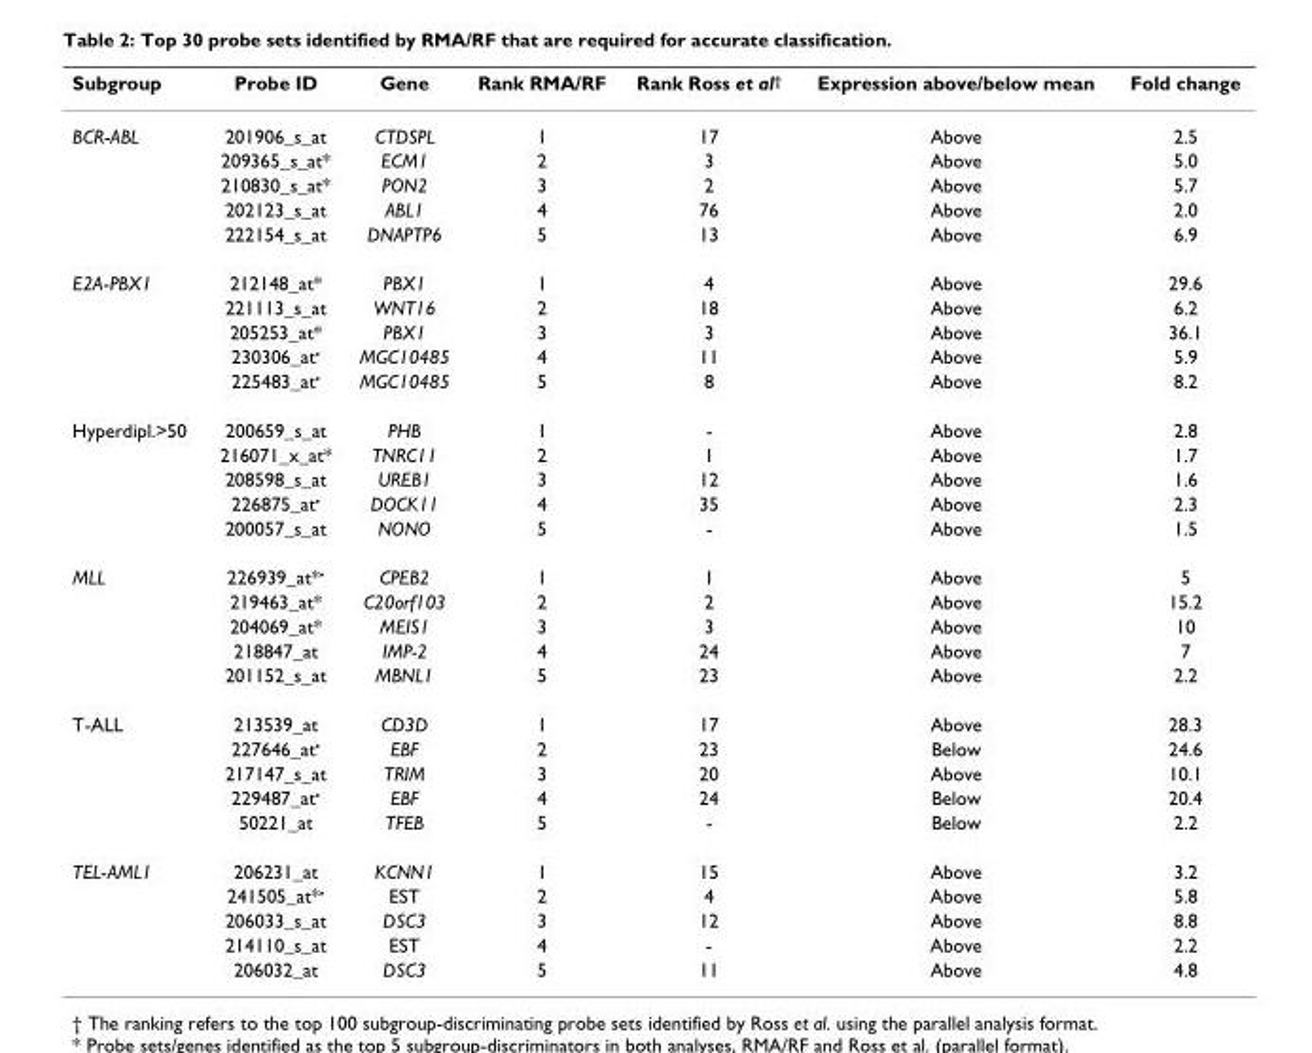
<table><thead><tr><td>Subgroup</td><td>Probe ID</td><td>Gene</td><td>Rank RMA/RF</td><td>Rank Ross et al†</td><td>Expression above/below mean</td><td>Fold change</td></tr></thead><tbody><tr><td rowspan="5">BCR-ABL</td><td>201906_s_at</td><td>CTDSPL</td><td>1</td><td>17</td><td>Above</td><td>2.5</td></tr><tr><td>209365_s_at*</td><td>ECM1</td><td>2</td><td>3</td><td>Above</td><td>5.0</td></tr><tr><td>210830_s_at*</td><td>PON2</td><td>3</td><td>2</td><td>Above</td><td>5.7</td></tr><tr><td>202123_s_at</td><td>ABL1</td><td>4</td><td>76</td><td>Above</td><td>2.0</td></tr><tr><td>222154_s_at</td><td>DNAPTP6</td><td>5</td><td>13</td><td>Above</td><td>6.9</td></tr><tr><td rowspan="5">E2A-PBX1</td><td>212148_at*</td><td>PBX1</td><td>1</td><td>4</td><td>Above</td><td>29.6</td></tr><tr><td>221113_s_at</td><td>WNT16</td><td>2</td><td>18</td><td>Above</td><td>6.2</td></tr><tr><td>205253_at*</td><td>PBX1</td><td>3</td><td>3</td><td>Above</td><td>36.1</td></tr><tr><td>230306_at•</td><td>MGC10485</td><td>4</td><td>11</td><td>Above</td><td>5.9</td></tr><tr><td>225483_at•</td><td>MGC10485</td><td>5</td><td>8</td><td>Above</td><td>8.2</td></tr><tr><td rowspan="5">Hyperdipl.&gt;50</td><td>200659_s_at</td><td>PHB</td><td>1</td><td>-</td><td>Above</td><td>2.8</td></tr><tr><td>216071_x_at*</td><td>TNRC11</td><td>2</td><td>1</td><td>Above</td><td>1.7</td></tr><tr><td>208598_s_at</td><td>UREB1</td><td>3</td><td>12</td><td>Above</td><td>1.6</td></tr><tr><td>226875_at•</td><td>DOCK11</td><td>4</td><td>35</td><td>Above</td><td>2.3</td></tr><tr><td>200057_s_at</td><td>NONO</td><td>5</td><td>-</td><td>Above</td><td>1.5</td></tr><tr><td rowspan="5">MLL</td><td>226939_at*•</td><td>CPEB2</td><td>1</td><td>1</td><td>Above</td><td>5</td></tr><tr><td>219463_at*</td><td>C20orf103</td><td>2</td><td>2</td><td>Above</td><td>15.2</td></tr><tr><td>204069_at*</td><td>MEIS1</td><td>3</td><td>3</td><td>Above</td><td>10</td></tr><tr><td>218847_at</td><td>IMP-2</td><td>4</td><td>24</td><td>Above</td><td>7</td></tr><tr><td>201152_s_at</td><td>MBNL1</td><td>5</td><td>23</td><td>Above</td><td>2.2</td></tr><tr><td rowspan="5">T-ALL</td><td>213539_at</td><td>CD3D</td><td>1</td><td>17</td><td>Above</td><td>28.3</td></tr><tr><td>227646_at•</td><td>EBF</td><td>2</td><td>23</td><td>Below</td><td>24.6</td></tr><tr><td>217147_s_at</td><td>TRIM</td><td>3</td><td>20</td><td>Above</td><td>10.1</td></tr><tr><td>229487_at•</td><td>EBF</td><td>4</td><td>24</td><td>Below</td><td>20.4</td></tr><tr><td>50221_at</td><td>TFEB</td><td>5</td><td>-</td><td>Below</td><td>2.2</td></tr><tr><td rowspan="5">TEL-AML1</td><td>206231_at</td><td>KCNN1</td><td>1</td><td>15</td><td>Above</td><td>3.2</td></tr><tr><td>241505_at*•</td><td>EST</td><td>2</td><td>4</td><td>Above</td><td>5.8</td></tr><tr><td>206033_s_at</td><td>DSC3</td><td>3</td><td>12</td><td>Above</td><td>8.8</td></tr><tr><td>214110_s_at</td><td>EST</td><td>4</td><td>-</td><td>Above</td><td>2.2</td></tr><tr><td>206032_at</td><td>DSC3</td><td>5</td><td>11</td><td>Above</td><td>4.8</td></tr></tbody></table>